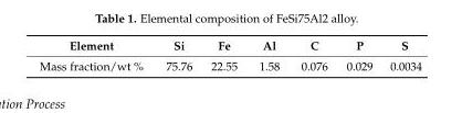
<table><thead><tr><td>Element</td><td>Si</td><td>Fe</td><td>Al</td><td>C</td><td>P</td><td>S</td></tr></thead><tbody><tr><td>Mass fraction/wt %</td><td>75.76</td><td>22.55</td><td>1.58</td><td>0.076</td><td>0.029</td><td>0.0034</td></tr></tbody></table>